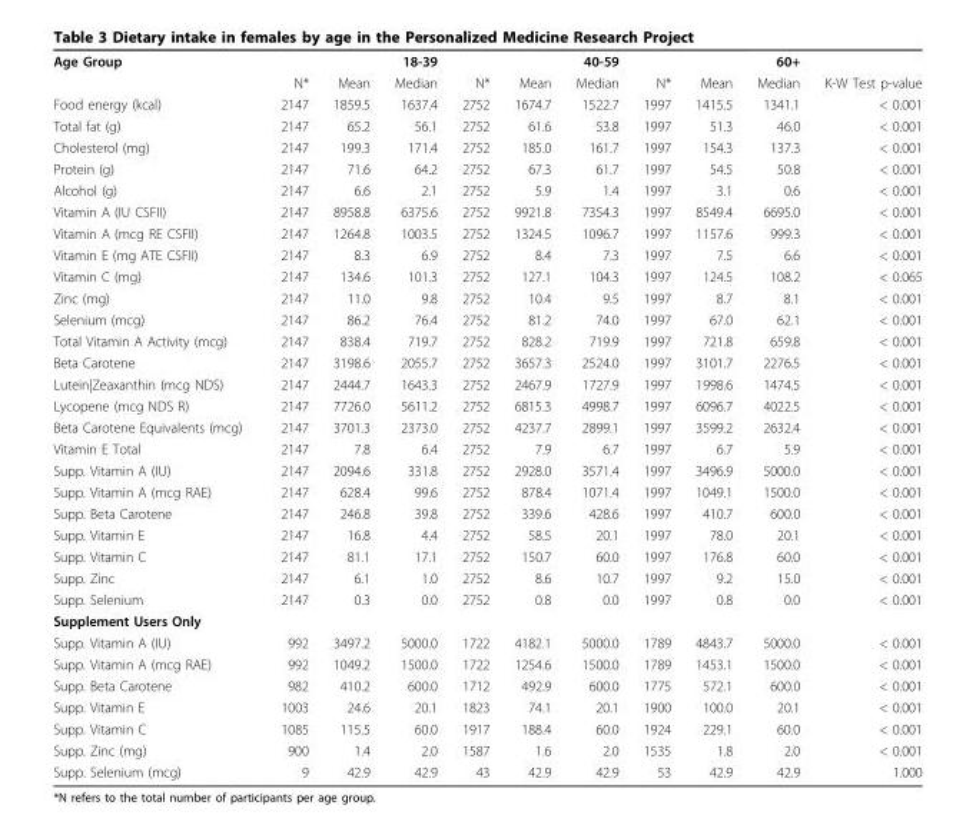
<table><tbody><tr><td rowspan="2">Age Group</td><td colspan="3">18-39</td><td colspan="3">40-59</td><td colspan="3">60+</td><td></td></tr><tr><td>N*</td><td>Mean</td><td>Median</td><td>N*</td><td>Mean</td><td>Median</td><td>N*</td><td>Mean</td><td>Median</td><td>K-W Test p-value</td></tr><tr><td>Food energy (kcal)</td><td>2147</td><td>1859.5</td><td>1637.4</td><td>2752</td><td>1674.7</td><td>1522.7</td><td>1997</td><td>1415.5</td><td>1341.1</td><td>&lt; 0.001</td></tr><tr><td>Total fat (g)</td><td>2147</td><td>65.2</td><td>56.1</td><td>2752</td><td>61.6</td><td>53.8</td><td>1997</td><td>51.3</td><td>46.0</td><td>&lt; 0.001</td></tr><tr><td>Cholesterol (mg)</td><td>2147</td><td>199.3</td><td>171.4</td><td>2752</td><td>185.0</td><td>161.7</td><td>1997</td><td>154.3</td><td>137.3</td><td>&lt; 0.001</td></tr><tr><td>Protein (g)</td><td>2147</td><td>71.6</td><td>64.2</td><td>2752</td><td>67.3</td><td>61.7</td><td>1997</td><td>54.5</td><td>50.8</td><td>&lt; 0.001</td></tr><tr><td>Alcohol (g)</td><td>2147</td><td>6.6</td><td>2.1</td><td>2752</td><td>5.9</td><td>1.4</td><td>1997</td><td>3.1</td><td>0.6</td><td>&lt; 0.001</td></tr><tr><td>Vitamin A (IU CSFII)</td><td>2147</td><td>8958.8</td><td>6375.6</td><td>2752</td><td>9921.8</td><td>7354.3</td><td>1997</td><td>8549.4</td><td>6695.0</td><td>&lt; 0.001</td></tr><tr><td>Vitamin A (mcg RE CSFII)</td><td>2147</td><td>1264.8</td><td>1003.5</td><td>2752</td><td>1324.5</td><td>1096.7</td><td>1997</td><td>1157.6</td><td>999.3</td><td>&lt; 0.001</td></tr><tr><td>Vitamin E (mg ATE CSFII)</td><td>2147</td><td>8.3</td><td>6.9</td><td>2752</td><td>8.4</td><td>7.3</td><td>1997</td><td>7.5</td><td>6.6</td><td>&lt; 0.001</td></tr><tr><td>Vitamin C (mg)</td><td>2147</td><td>134.6</td><td>101.3</td><td>2752</td><td>127.1</td><td>104.3</td><td>1997</td><td>124.5</td><td>108.2</td><td>&lt; 0.065</td></tr><tr><td>Zinc (mg)</td><td>2147</td><td>11.0</td><td>9.8</td><td>2752</td><td>10.4</td><td>9.5</td><td>1997</td><td>8.7</td><td>8.1</td><td>&lt; 0.001</td></tr><tr><td>Selenium (mcg)</td><td>2147</td><td>86.2</td><td>76.4</td><td>2752</td><td>81.2</td><td>74.0</td><td>1997</td><td>67.0</td><td>62.1</td><td>&lt; 0.001</td></tr><tr><td>Total Vitamin A Activity (mcg)</td><td>2147</td><td>838.4</td><td>719.7</td><td>2752</td><td>828.2</td><td>719.9</td><td>1997</td><td>721.8</td><td>659.8</td><td>&lt; 0.001</td></tr><tr><td>Beta Carotene</td><td>2147</td><td>3198.6</td><td>2055.7</td><td>2752</td><td>3657.3</td><td>2524.0</td><td>1997</td><td>3101.7</td><td>2276.5</td><td>&lt; 0.001</td></tr><tr><td>Lutein|Zeaxanthin (mcg NDS)</td><td>2147</td><td>2444.7</td><td>1643.3</td><td>2752</td><td>2467.9</td><td>1727.9</td><td>1997</td><td>1998.6</td><td>1474.5</td><td>&lt; 0.001</td></tr><tr><td>Lycopene (mcg NDS R)</td><td>2147</td><td>7726.0</td><td>5611.2</td><td>2752</td><td>6815.3</td><td>4998.7</td><td>1997</td><td>6096.7</td><td>4022.5</td><td>&lt; 0.001</td></tr><tr><td>Beta Carotene Equivalents (mcg)</td><td>2147</td><td>3701.3</td><td>2373.0</td><td>2752</td><td>4237.7</td><td>2899.1</td><td>1997</td><td>3599.2</td><td>2632.4</td><td>&lt; 0.001</td></tr><tr><td>Vitamin E Total</td><td>2147</td><td>7.8</td><td>6.4</td><td>2752</td><td>7.9</td><td>6.7</td><td>1997</td><td>6.7</td><td>5.9</td><td>&lt; 0.001</td></tr><tr><td>Supp. Vitamin A (IU)</td><td>2147</td><td>2094.6</td><td>331.8</td><td>2752</td><td>2928.0</td><td>3571.4</td><td>1997</td><td>3496.9</td><td>5000.0</td><td>&lt; 0.001</td></tr><tr><td>Supp. Vitamin A (mcg RAE)</td><td>2147</td><td>628.4</td><td>99.6</td><td>2752</td><td>878.4</td><td>1071.4</td><td>1997</td><td>1049.1</td><td>1500.0</td><td>&lt; 0.001</td></tr><tr><td>Supp. Beta Carotene</td><td>2147</td><td>246.8</td><td>39.8</td><td>2752</td><td>339.6</td><td>428.6</td><td>1997</td><td>410.7</td><td>600.0</td><td>&lt; 0.001</td></tr><tr><td>Supp. Vitamin E</td><td>2147</td><td>16.8</td><td>4.4</td><td>2752</td><td>58.5</td><td>20.1</td><td>1997</td><td>78.0</td><td>20.1</td><td>&lt; 0.001</td></tr><tr><td>Supp. Vitamin C</td><td>2147</td><td>81.1</td><td>17.1</td><td>2752</td><td>150.7</td><td>60.0</td><td>1997</td><td>176.8</td><td>60.0</td><td>&lt; 0.001</td></tr><tr><td>Supp. Zinc</td><td>2147</td><td>6.1</td><td>1.0</td><td>2752</td><td>8.6</td><td>10.7</td><td>1997</td><td>9.2</td><td>15.0</td><td>&lt; 0.001</td></tr><tr><td>Supp. Selenium</td><td>2147</td><td>0.3</td><td>0.0</td><td>2752</td><td>0.8</td><td>0.0</td><td>1997</td><td>0.8</td><td>0.0</td><td>&lt; 0.001</td></tr><tr><td colspan="11">Supplement Users Only</td></tr><tr><td>Supp. Vitamin A (IU)</td><td>992</td><td>3497.2</td><td>5000.0</td><td>1722</td><td>4182.1</td><td>5000.0</td><td>1789</td><td>4843.7</td><td>5000.0</td><td>&lt; 0.001</td></tr><tr><td>Supp. Vitamin A (mcg RAE)</td><td>992</td><td>1049.2</td><td>1500.0</td><td>1722</td><td>1254.6</td><td>1500.0</td><td>1789</td><td>1453.1</td><td>1500.0</td><td>&lt; 0.001</td></tr><tr><td>Supp. Beta Carotene</td><td>982</td><td>410.2</td><td>600.0</td><td>1712</td><td>492.9</td><td>600.0</td><td>1775</td><td>572.1</td><td>600.0</td><td>&lt; 0.001</td></tr><tr><td>Supp. Vitamin E</td><td>1003</td><td>24.6</td><td>20.1</td><td>1823</td><td>74.1</td><td>20.1</td><td>1900</td><td>100.0</td><td>20.1</td><td>&lt; 0.001</td></tr><tr><td>Supp. Vitamin C</td><td>1085</td><td>115.5</td><td>60.0</td><td>1917</td><td>188.4</td><td>60.0</td><td>1924</td><td>229.1</td><td>60.0</td><td>&lt; 0.001</td></tr><tr><td>Supp. Zinc (mg)</td><td>900</td><td>1.4</td><td>2.0</td><td>1587</td><td>1.6</td><td>2.0</td><td>1535</td><td>1.8</td><td>2.0</td><td>&lt; 0.001</td></tr><tr><td>Supp. Selenium (mcg)</td><td>9</td><td>42.9</td><td>42.9</td><td>43</td><td>42.9</td><td>42.9</td><td>53</td><td>42.9</td><td>42.9</td><td>1.000</td></tr></tbody></table>